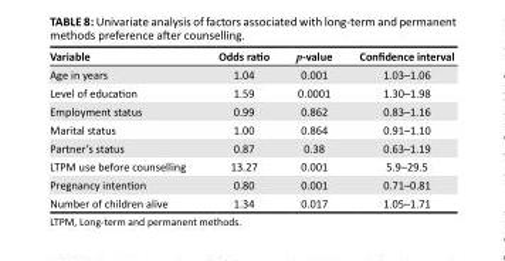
<table><thead><tr><td>Variable</td><td>Odds ratio</td><td>p-value</td><td>Confidence interval</td></tr></thead><tbody><tr><td>Age in years</td><td>1.04</td><td>0.001</td><td>1.03–1.06</td></tr><tr><td>Level of education</td><td>1.59</td><td>0.0001</td><td>1.30–1.98</td></tr><tr><td>Employment status</td><td>0.99</td><td>0.862</td><td>0.83–1.16</td></tr><tr><td>Marital status</td><td>1.00</td><td>0.864</td><td>0.91–1.10</td></tr><tr><td>Partner’s status</td><td>0.87</td><td>0.38</td><td>0.63–1.19</td></tr><tr><td>LTPM use before counselling</td><td>13.27</td><td>0.001</td><td>5.9–29.5</td></tr><tr><td>Pregnancy intention</td><td>0.80</td><td>0.001</td><td>0.71–0.81</td></tr><tr><td>Number of children alive</td><td>1.34</td><td>0.017</td><td>1.05–1.71</td></tr></tbody></table>